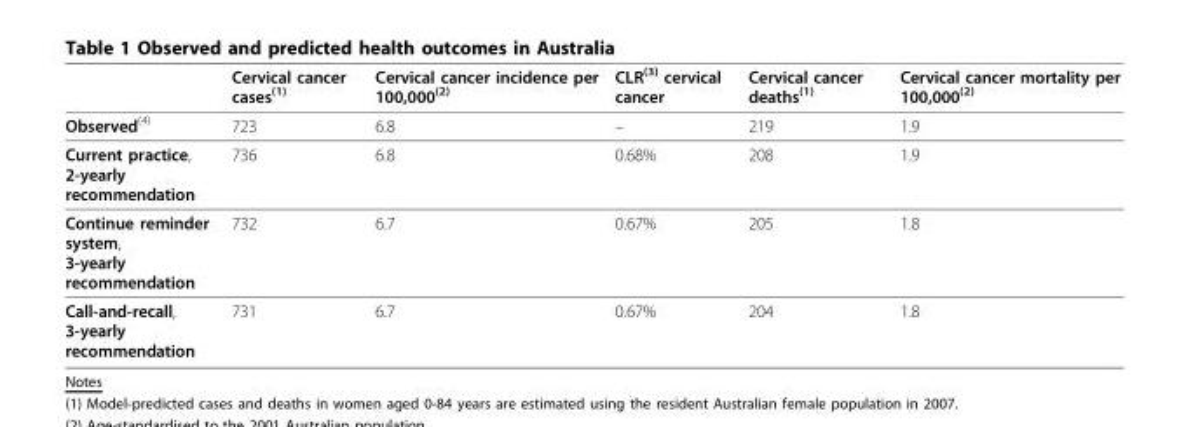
<table><thead><tr><td></td><td>Cervical cancer cases<sup>(1)</sup></td><td>Cervical cancer incidence per 100,000<sup>(2)</sup></td><td>CLR<sup>(3)</sup> cervical cancer</td><td>Cervical cancer deaths<sup>(1)</sup></td><td>Cervical cancer mortality per 100,000<sup>(2)</sup></td></tr></thead><tbody><tr><td>Observed<sup>(4)</sup></td><td>723</td><td>6.8</td><td>–</td><td>219</td><td>1.9</td></tr><tr><td>Current practice, 2-yearly recommendation</td><td>736</td><td>6.8</td><td>0.68%</td><td>208</td><td>1.9</td></tr><tr><td>Continue reminder system, 3-yearly recommendation</td><td>732</td><td>6.7</td><td>0.67%</td><td>205</td><td>1.8</td></tr><tr><td>Call-and-recall, 3-yearly recommendation</td><td>731</td><td>6.7</td><td>0.67%</td><td>204</td><td>1.8</td></tr></tbody></table>